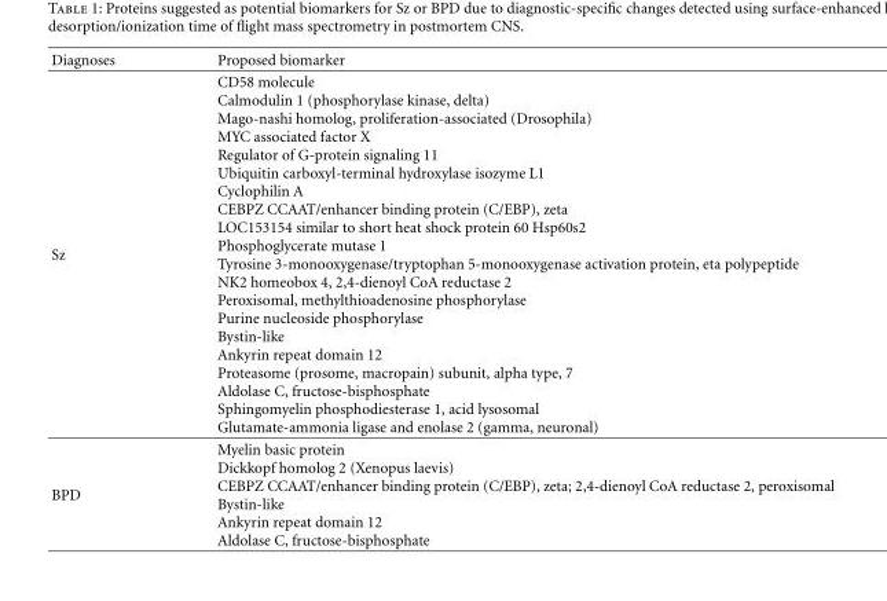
<table><thead><tr><td>Diagnoses</td><td>Proposed biomarker</td></tr></thead><tbody><tr><td>Sz</td><td>CD58 molecule Calmodulin 1 (phosphorylase kinase, delta) Mago-nashi homolog, proliferation-associated (Drosophila) MYC associated factor X Regulator of G-protein signaling 11 Ubiquitin carboxyl-terminal hydroxylase isozyme L1 Cyclophilin A CEBPZ CCAAT/enhancer binding protein (C/EBP), zeta LOC153154 similar to short heat shock protein 60 Hsp60s2 Phosphoglycerate mutase 1 Tyrosine 3-monooxygenase/tryptophan 5-monooxygenase activation protein, eta polypeptide NK2 homeobox 4, 2,4-dienoyl CoA reductase 2 Peroxisomal, methylthioadenosine phosphorylase Purine nucleoside phosphorylase Bystin-like Ankyrin repeat domain 12 Proteasome (prosome, macropain) subunit, alpha type, 7 Aldolase C, fructose-bisphosphate Sphingomyelin phosphodiesterase 1, acid lysosomal Glutamate-ammonia ligase and enolase 2 (gamma, neuronal)</td></tr><tr><td>BPD</td><td>Myelin basic protein Dickkopf homolog 2 (Xenopus laevis) CEBPZ CCAAT/enhancer binding protein (C/EBP), zeta; 2,4-dienoyl CoA reductase 2, peroxisomal Bystin-like Ankyrin repeat domain 12 Aldolase C, fructose-bisphosphate</td></tr></tbody></table>